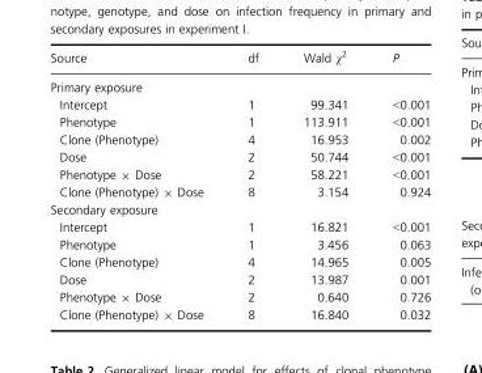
<table><thead><tr><td>Source</td><td>df</td><td>Wald χ<sup>2</sup></td><td>P</td></tr></thead><tbody><tr><td colspan="4">Primary exposure</td></tr><tr><td>Intercept</td><td>1</td><td>99.341</td><td>&lt;0.001</td></tr><tr><td>Phenotype</td><td>1</td><td>113.911</td><td>&lt;0.001</td></tr><tr><td>Clone (Phenotype)</td><td>4</td><td>16.953</td><td>0.002</td></tr><tr><td>Dose</td><td>2</td><td>50.744</td><td>&lt;0.001</td></tr><tr><td>Phenotype × Dose</td><td>2</td><td>58.221</td><td>&lt;0.001</td></tr><tr><td>Clone (Phenotype) × Dose</td><td>8</td><td>3.154</td><td>0.924</td></tr><tr><td colspan="4">Secondary exposure</td></tr><tr><td>Intercept</td><td>1</td><td>16.821</td><td>&lt;0.001</td></tr><tr><td>Phenotype</td><td>1</td><td>3.456</td><td>0.063</td></tr><tr><td>Clone (Phenotype)</td><td>4</td><td>14.965</td><td>0.005</td></tr><tr><td>Dose</td><td>2</td><td>13.987</td><td>0.001</td></tr><tr><td>Phenotype × Dose</td><td>2</td><td>0.640</td><td>0.726</td></tr><tr><td>Clone (Phenotype) × Dose</td><td>8</td><td>16.840</td><td>0.032</td></tr></tbody></table>